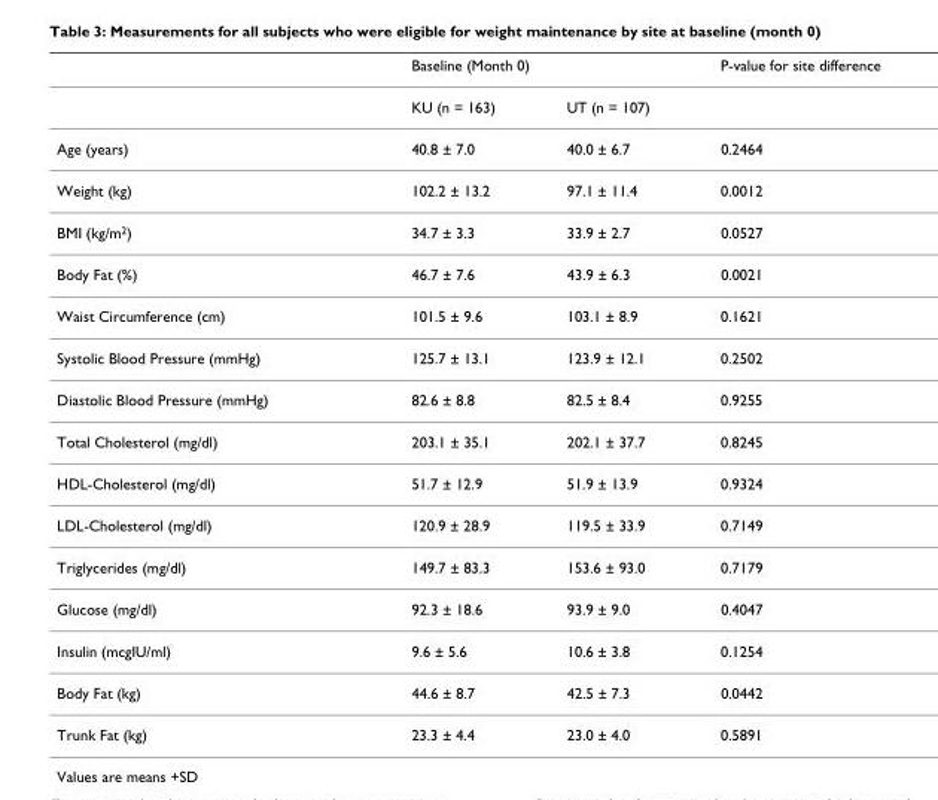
<table><thead><tr><td rowspan="2"></td><td colspan="2">Baseline (Month 0)</td><td rowspan="2">P-value for site difference</td></tr><tr><td>KU (n = 163)</td><td>UT (n = 107)</td></tr></thead><tbody><tr><td>Age (years)</td><td>40.8 ± 7.0</td><td>40.0 ± 6.7</td><td>0.2464</td></tr><tr><td>Weight (kg)</td><td>102.2 ± 13.2</td><td>97.1 ± 11.4</td><td>0.0012</td></tr><tr><td>BMI (kg/m<sup>2</sup>)</td><td>34.7 ± 3.3</td><td>33.9 ± 2.7</td><td>0.0527</td></tr><tr><td>Body Fat (%)</td><td>46.7 ± 7.6</td><td>43.9 ± 6.3</td><td>0.0021</td></tr><tr><td>Waist Circumference (cm)</td><td>101.5 ± 9.6</td><td>103.1 ± 8.9</td><td>0.1621</td></tr><tr><td>Systolic Blood Pressure (mmHg)</td><td>125.7 ± 13.1</td><td>123.9 ± 12.1</td><td>0.2502</td></tr><tr><td>Diastolic Blood Pressure (mmHg)</td><td>82.6 ± 8.8</td><td>82.5 ± 8.4</td><td>0.9255</td></tr><tr><td>Total Cholesterol (mg/dl)</td><td>203.1 ± 35.1</td><td>202.1 ± 37.7</td><td>0.8245</td></tr><tr><td>HDL-Cholesterol (mg/dl)</td><td>51.7 ± 12.9</td><td>51.9 ± 13.9</td><td>0.9324</td></tr><tr><td>LDL-Cholesterol (mg/dl)</td><td>120.9 ± 28.9</td><td>119.5 ± 33.9</td><td>0.7149</td></tr><tr><td>Triglycerides (mg/dl)</td><td>149.7 ± 83.3</td><td>153.6 ± 93.0</td><td>0.7179</td></tr><tr><td>Glucose (mg/dl)</td><td>92.3 ± 18.6</td><td>93.9 ± 9.0</td><td>0.4047</td></tr><tr><td>Insulin (mcgIU/ml)</td><td>9.6 ± 5.6</td><td>10.6 ± 3.8</td><td>0.1254</td></tr><tr><td>Body Fat (kg)</td><td>44.6 ± 8.7</td><td>42.5 ± 7.3</td><td>0.0442</td></tr><tr><td>Trunk Fat (kg)</td><td>23.3 ± 4.4</td><td>23.0 ± 4.0</td><td>0.5891</td></tr></tbody></table>